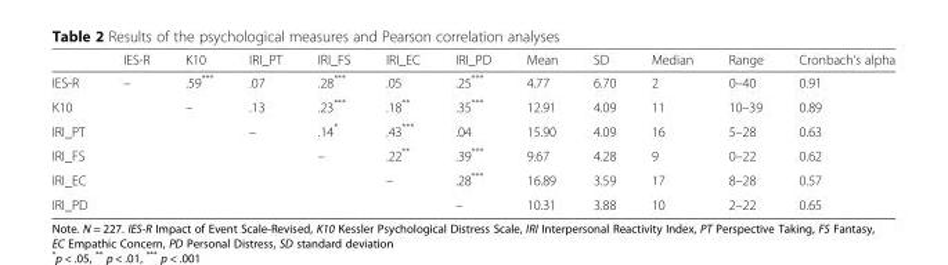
<table><thead><tr><td></td><td>IES-R</td><td>K10</td><td>IRI_PT</td><td>IRI_FS</td><td>IRI_EC</td><td>IRI_PD</td><td>Mean</td><td>SD</td><td>Median</td><td>Range</td><td>Cronbach’s alpha</td></tr></thead><tbody><tr><td>IES-R</td><td>–</td><td>.59***</td><td>.07</td><td>.28***</td><td>.05</td><td>.25***</td><td>4.77</td><td>6.70</td><td>2</td><td>0–40</td><td>0.91</td></tr><tr><td>K10</td><td></td><td>–</td><td>.13</td><td>.23***</td><td>.18**</td><td>.35***</td><td>12.91</td><td>4.09</td><td>11</td><td>10–39</td><td>0.89</td></tr><tr><td>IRI_PT</td><td></td><td></td><td>–</td><td>.14*</td><td>.43***</td><td>.04</td><td>15.90</td><td>4.09</td><td>16</td><td>5–28</td><td>0.63</td></tr><tr><td>IRI_FS</td><td></td><td></td><td></td><td>–</td><td>.22**</td><td>.39***</td><td>9.67</td><td>4.28</td><td>9</td><td>0–22</td><td>0.62</td></tr><tr><td>IRI_EC</td><td></td><td></td><td></td><td></td><td>–</td><td>.28***</td><td>16.89</td><td>3.59</td><td>17</td><td>8–28</td><td>0.57</td></tr><tr><td>IRI_PD</td><td></td><td></td><td></td><td></td><td></td><td>–</td><td>10.31</td><td>3.88</td><td>10</td><td>2–22</td><td>0.65</td></tr></tbody></table>